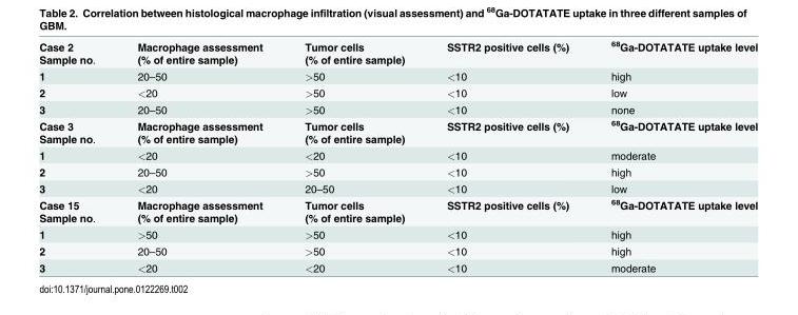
<table><tbody><tr><td>Case 2 Sample no.</td><td>Macrophage assessment (% of entire sample)</td><td>Tumor cells (% of entire sample)</td><td>SSTR2 positive cells (%)</td><td><sup>68</sup>Ga-DOTATATE uptake level</td></tr><tr><td>1</td><td>20–50</td><td>&gt;50</td><td>&lt;10</td><td>high</td></tr><tr><td>2</td><td>&lt;20</td><td>&gt;50</td><td>&lt;10</td><td>low</td></tr><tr><td>3</td><td>20–50</td><td>&gt;50</td><td>&lt;10</td><td>none</td></tr><tr><td>Case 3 Sample no.</td><td>Macrophage assessment (% of entire sample)</td><td>Tumor cells (% of entire sample)</td><td>SSTR2 positive cells (%)</td><td><sup>68</sup>Ga-DOTATATE uptake level</td></tr><tr><td>1</td><td>&lt;20</td><td>&lt;20</td><td>&lt;10</td><td>moderate</td></tr><tr><td>2</td><td>20–50</td><td>&gt;50</td><td>&lt;10</td><td>high</td></tr><tr><td>3</td><td>&lt;20</td><td>20–50</td><td>&lt;10</td><td>low</td></tr><tr><td>Case 15 Sample no.</td><td>Macrophage assessment (% of entire sample)</td><td>Tumor cells (% of entire sample)</td><td>SSTR2 positive cells (%)</td><td><sup>68</sup>Ga-DOTATATE uptake level</td></tr><tr><td>1</td><td>&gt;50</td><td>&gt;50</td><td>&lt;10</td><td>high</td></tr><tr><td>2</td><td>20–50</td><td>&gt;50</td><td>&lt;10</td><td>high</td></tr><tr><td>3</td><td>&lt;20</td><td>&lt;20</td><td>&lt;10</td><td>moderate</td></tr></tbody></table>